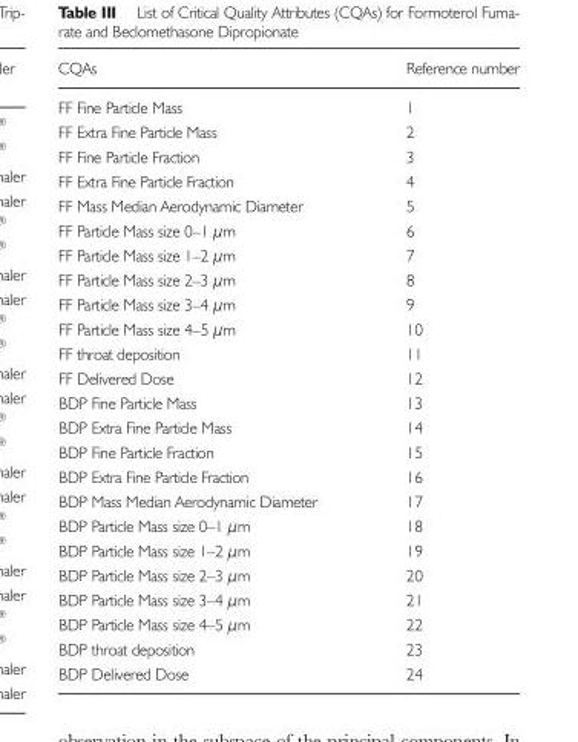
<table><thead><tr><td>CQAs</td><td>Reference number</td></tr></thead><tbody><tr><td>FF Fine Particle Mass</td><td>1</td></tr><tr><td>FF Extra Fine Particle Mass</td><td>2</td></tr><tr><td>FF Fine Particle Fraction</td><td>3</td></tr><tr><td>FF Extra Fine Particle Fraction</td><td>4</td></tr><tr><td>FF Mass Median Aerodynamic Diameter</td><td>5</td></tr><tr><td>FF Particle Mass size 0–1 μm</td><td>6</td></tr><tr><td>FF Particle Mass size 1–2 μm</td><td>7</td></tr><tr><td>FF Particle Mass size 2–3 μm</td><td>8</td></tr><tr><td>FF Particle Mass size 3–4 μm</td><td>9</td></tr><tr><td>FF Particle Mass size 4–5 μm</td><td>10</td></tr><tr><td>FF throat deposition</td><td>11</td></tr><tr><td>FF Delivered Dose</td><td>12</td></tr><tr><td>BDP Fine Particle Mass</td><td>13</td></tr><tr><td>BDP Extra Fine Particle Mass</td><td>14</td></tr><tr><td>BDP Fine Particle Fraction</td><td>15</td></tr><tr><td>BDP Extra Fine Particle Fraction</td><td>16</td></tr><tr><td>BDP Mass Median Aerodynamic Diameter</td><td>17</td></tr><tr><td>BDP Particle Mass size 0–1 μm</td><td>18</td></tr><tr><td>BDP Particle Mass size 1–2 μm</td><td>19</td></tr><tr><td>BDP Particle Mass size 2–3 μm</td><td>20</td></tr><tr><td>BDP Particle Mass size 3–4 μm</td><td>21</td></tr><tr><td>BDP Particle Mass size 4–5 μm</td><td>22</td></tr><tr><td>BDP throat deposition</td><td>23</td></tr><tr><td>BDP Delivered Dose</td><td>24</td></tr></tbody></table>